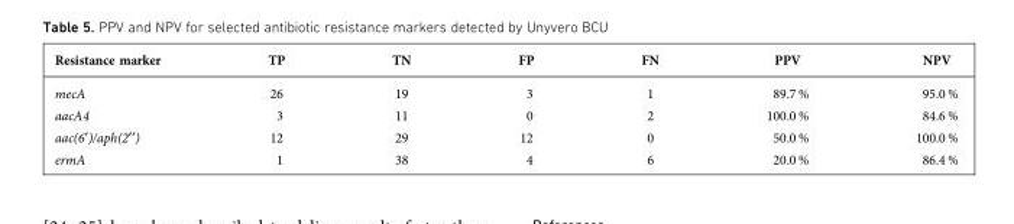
<table><thead><tr><td>Resistance marker</td><td>TP</td><td>TN</td><td>FP</td><td>FN</td><td>PPV</td><td>NPV</td></tr></thead><tbody><tr><td>mecA</td><td>26</td><td>19</td><td>3</td><td>1</td><td>89.7 %</td><td>95.0 %</td></tr><tr><td>aacA4</td><td>3</td><td>11</td><td>0</td><td>2</td><td>100.0 %</td><td>84.6 %</td></tr><tr><td>aac(6¢)/aph(2¢¢)</td><td>12</td><td>29</td><td>12</td><td>0</td><td>50.0 %</td><td>100.0 %</td></tr><tr><td>ermA</td><td>1</td><td>38</td><td>4</td><td>6</td><td>20.0 %</td><td>86.4 %</td></tr></tbody></table>